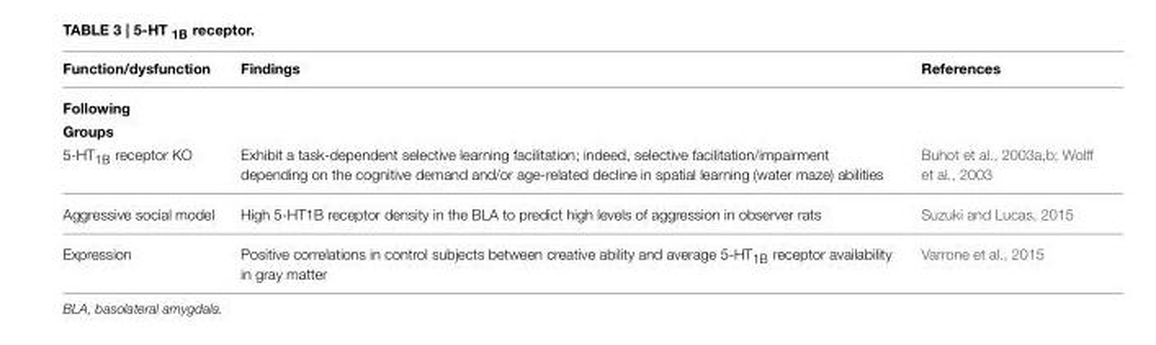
<table><thead><tr><td>Function/dysfunction</td><td>Findings</td><td>References</td></tr></thead><tbody><tr><td colspan="3">Following Groups</td></tr><tr><td>5-HT<sub>1B</sub> receptor KO</td><td>Exhibit a task-dependent selective learning facilitation; indeed, selective facilitation/impairment depending on the cognitive demand and/or age-related decline in spatial learning (water maze) abilities</td><td>Buhot et al., 2003a,b; Wolff et al., 2003</td></tr><tr><td>Aggressive social model</td><td>High 5-HT1B receptor density in the BLA to predict high levels of aggression in observer rats</td><td>Suzuki and Lucas, 2015</td></tr><tr><td>Expression</td><td>Positive correlations in control subjects between creative ability and average 5-HT<sub>1B</sub> receptor availability in gray matter</td><td>Varrone et al., 2015</td></tr></tbody></table>